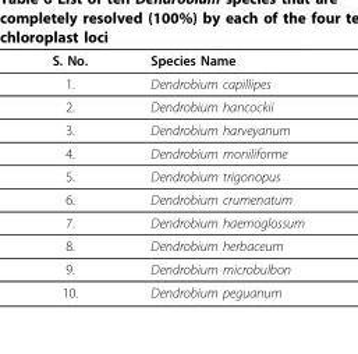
<table><thead><tr><td>S. No.</td><td>Species Name</td></tr></thead><tbody><tr><td>1.</td><td>Dendrobium capillipes</td></tr><tr><td>2.</td><td>Dendrobium hancockii</td></tr><tr><td>3.</td><td>Dendrobium harveyanum</td></tr><tr><td>4.</td><td>Dendrobium moniliforme</td></tr><tr><td>5.</td><td>Dendrobium trigonopus</td></tr><tr><td>6.</td><td>Dendrobium crumenatum</td></tr><tr><td>7.</td><td>Dendrobium haemoglossum</td></tr><tr><td>8.</td><td>Dendrobium herbaceum</td></tr><tr><td>9.</td><td>Dendrobium microbulbon</td></tr><tr><td>10.</td><td>Dendrobium peguanum</td></tr></tbody></table>